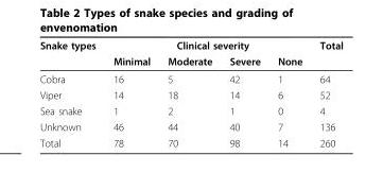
<table><thead><tr><td rowspan="2">Snake types</td><td colspan="4">Clinical severity</td><td rowspan="2">Total</td></tr><tr><td>Minimal</td><td>Moderate</td><td>Severe</td><td>None</td></tr></thead><tbody><tr><td>Cobra</td><td>16</td><td>5</td><td>42</td><td>1</td><td>64</td></tr><tr><td>Viper</td><td>14</td><td>18</td><td>14</td><td>6</td><td>52</td></tr><tr><td>Sea snake</td><td>1</td><td>2</td><td>1</td><td>0</td><td>4</td></tr><tr><td>Unknown</td><td>46</td><td>44</td><td>40</td><td>7</td><td>136</td></tr><tr><td>Total</td><td>78</td><td>70</td><td>98</td><td>14</td><td>260</td></tr></tbody></table>